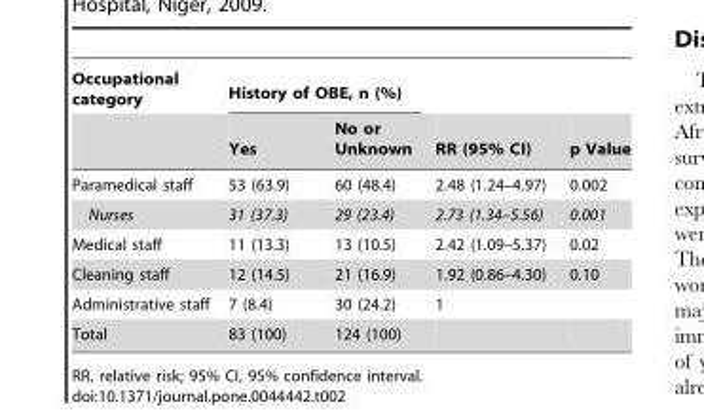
<table><thead><tr><td rowspan="2">Occupational category</td><td colspan="2">History of OBE, n (%)</td><td rowspan="2">RR (95% CI)</td><td rowspan="2">p Value</td></tr><tr><td>Yes</td><td>No or Unknown</td></tr></thead><tbody><tr><td>Paramedical staff</td><td>53 (63.9)</td><td>60 (48.4)</td><td>2.48 (1.24–4.97)</td><td>0.002</td></tr><tr><td>Nurses</td><td>31 (37.3)</td><td>29 (23.4)</td><td>2.73 (1.34–5.56)</td><td>0.001</td></tr><tr><td>Medical staff</td><td>11 (13.3)</td><td>13 (10.5)</td><td>2.42 (1.09–5.37)</td><td>0.02</td></tr><tr><td>Cleaning staff</td><td>12 (14.5)</td><td>21 (16.9)</td><td>1.92 (0.86–4.30)</td><td>0.10</td></tr><tr><td>Administrative staff</td><td>7 (8.4)</td><td>30 (24.2)</td><td>1</td><td></td></tr><tr><td>Total</td><td>83 (100)</td><td>124 (100)</td><td></td><td></td></tr></tbody></table>